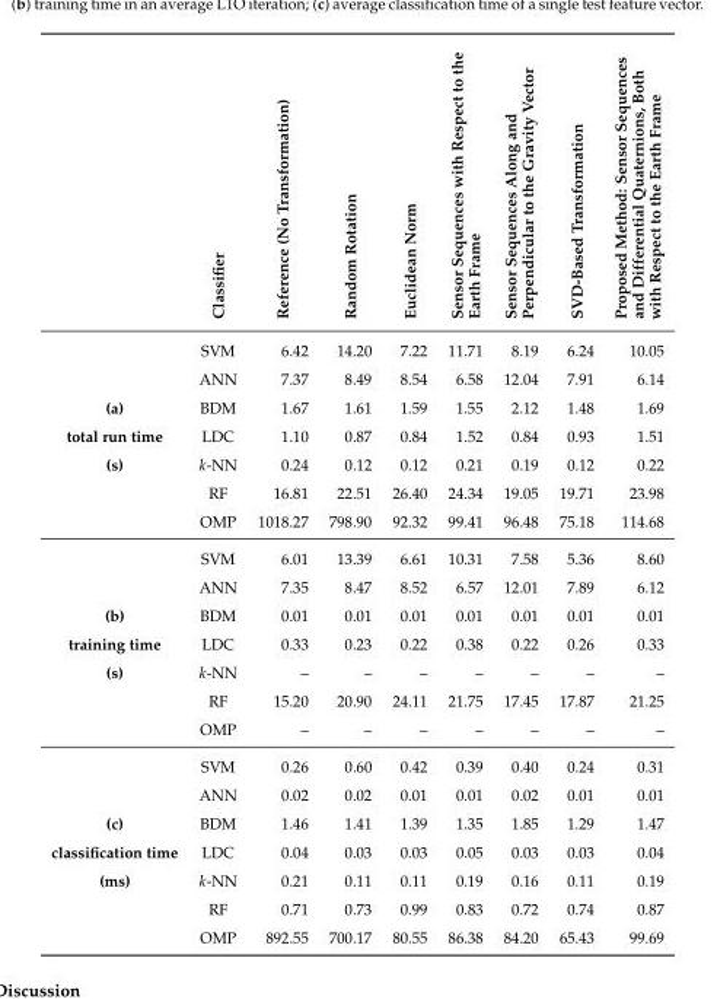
<table><thead><tr><td></td><td>Classifier</td><td>Reference (No Transformation)</td><td>Random Rotation</td><td>Euclidean Norm</td><td>Sensor Sequences with Respect to the Earth Frame</td><td>Sensor Sequences Along and Perpendicular to the Gravity Vector</td><td>SVD-Based Transformation</td><td>Proposed Method: Sensor Sequences and Differential Quaternions, Both with Respect to the Earth Frame</td></tr></thead><tbody><tr><td rowspan="7">(a) total run time (s)</td><td>SVM</td><td>6.42</td><td>14.20</td><td>7.22</td><td>11.71</td><td>8.19</td><td>6.24</td><td>10.05</td></tr><tr><td>ANN</td><td>7.37</td><td>8.49</td><td>8.54</td><td>6.58</td><td>12.04</td><td>7.91</td><td>6.14</td></tr><tr><td>BDM</td><td>1.67</td><td>1.61</td><td>1.59</td><td>1.55</td><td>2.12</td><td>1.48</td><td>1.69</td></tr><tr><td>LDC</td><td>1.10</td><td>0.87</td><td>0.84</td><td>1.52</td><td>0.84</td><td>0.93</td><td>1.51</td></tr><tr><td>k-NN</td><td>0.24</td><td>0.12</td><td>0.12</td><td>0.21</td><td>0.19</td><td>0.12</td><td>0.22</td></tr><tr><td>RF</td><td>16.81</td><td>22.51</td><td>26.40</td><td>24.34</td><td>19.05</td><td>19.71</td><td>23.98</td></tr><tr><td>OMP</td><td>1018.27</td><td>798.90</td><td>92.32</td><td>99.41</td><td>96.48</td><td>75.18</td><td>114.68</td></tr><tr><td rowspan="7">(b) training time (s)</td><td>SVM</td><td>6.01</td><td>13.39</td><td>6.61</td><td>10.31</td><td>7.58</td><td>5.36</td><td>8.60</td></tr><tr><td>ANN</td><td>7.35</td><td>8.47</td><td>8.52</td><td>6.57</td><td>12.01</td><td>7.89</td><td>6.12</td></tr><tr><td>BDM</td><td>0.01</td><td>0.01</td><td>0.01</td><td>0.01</td><td>0.01</td><td>0.01</td><td>0.01</td></tr><tr><td>LDC</td><td>0.33</td><td>0.23</td><td>0.22</td><td>0.38</td><td>0.22</td><td>0.26</td><td>0.33</td></tr><tr><td>k-NN</td><td>–</td><td>–</td><td>–</td><td>–</td><td>–</td><td>–</td><td>–</td></tr><tr><td>RF</td><td>15.20</td><td>20.90</td><td>24.11</td><td>21.75</td><td>17.45</td><td>17.87</td><td>21.25</td></tr><tr><td>OMP</td><td>–</td><td>–</td><td>–</td><td>–</td><td>–</td><td>–</td><td>–</td></tr><tr><td rowspan="7">(c) classification time (ms)</td><td>SVM</td><td>0.26</td><td>0.60</td><td>0.42</td><td>0.39</td><td>0.40</td><td>0.24</td><td>0.31</td></tr><tr><td>ANN</td><td>0.02</td><td>0.02</td><td>0.01</td><td>0.01</td><td>0.02</td><td>0.01</td><td>0.01</td></tr><tr><td>BDM</td><td>1.46</td><td>1.41</td><td>1.39</td><td>1.35</td><td>1.85</td><td>1.29</td><td>1.47</td></tr><tr><td>LDC</td><td>0.04</td><td>0.03</td><td>0.03</td><td>0.05</td><td>0.03</td><td>0.03</td><td>0.04</td></tr><tr><td>k-NN</td><td>0.21</td><td>0.11</td><td>0.11</td><td>0.19</td><td>0.16</td><td>0.11</td><td>0.19</td></tr><tr><td>RF</td><td>0.71</td><td>0.73</td><td>0.99</td><td>0.83</td><td>0.72</td><td>0.74</td><td>0.87</td></tr><tr><td>OMP</td><td>892.55</td><td>700.17</td><td>80.55</td><td>86.38</td><td>84.20</td><td>65.43</td><td>99.69</td></tr></tbody></table>